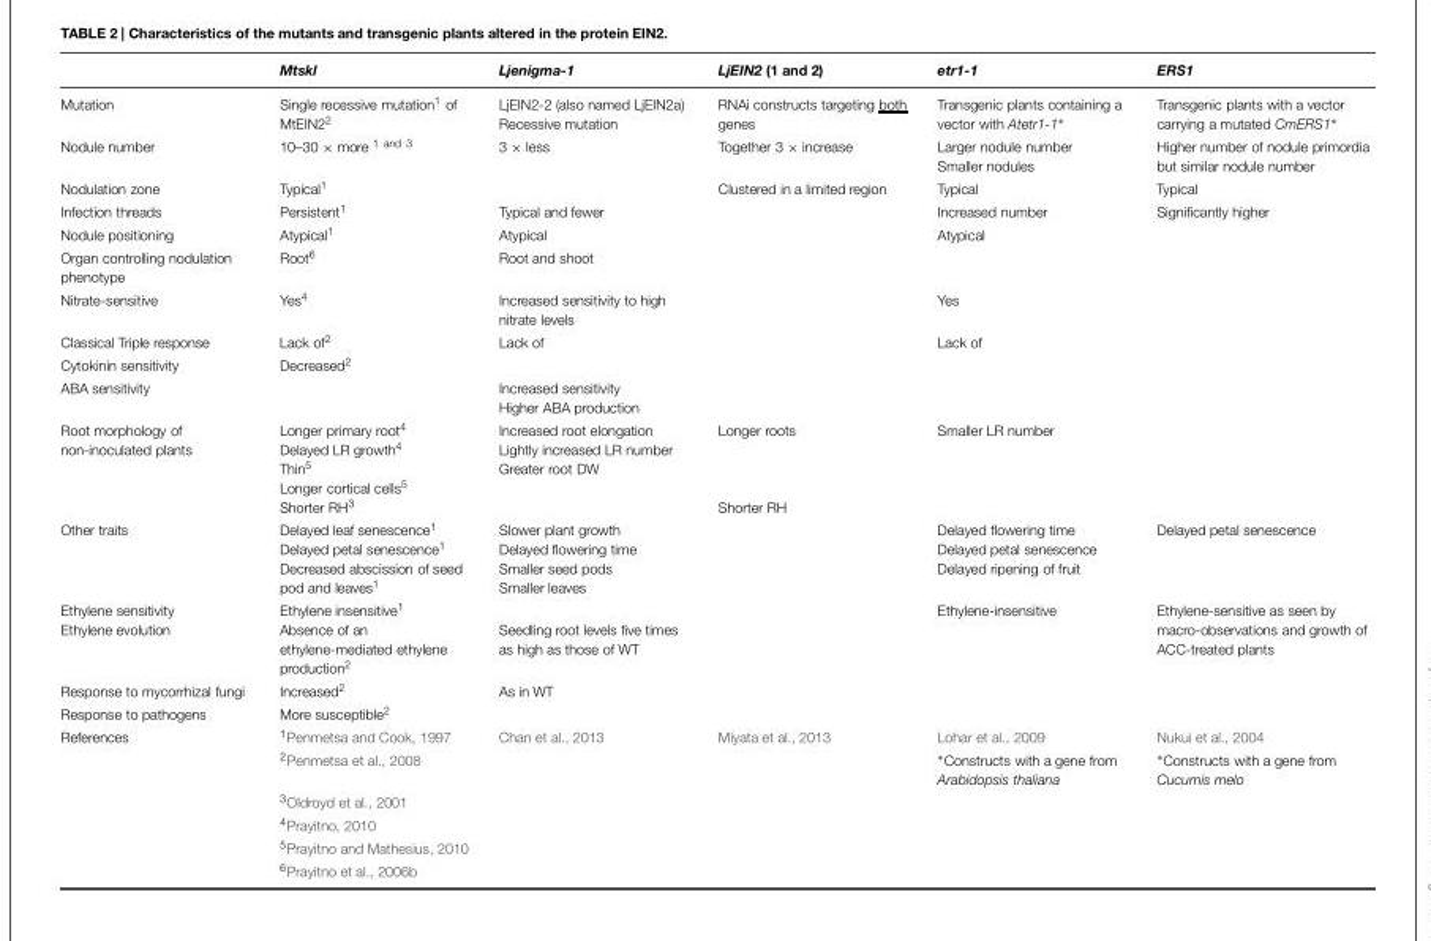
<table><thead><tr><td></td><td>Mtskl</td><td>Ljenigma-1</td><td>LjEIN2 (1 and 2)</td><td>etr1-1</td><td>ERS1</td></tr></thead><tbody><tr><td>Mutation</td><td>Single recessive mutation<sup>1</sup> of MtEIN2<sup>2</sup></td><td>LjEIN2-2 (also named LjEIN2a) Recessive mutation</td><td>RNAi constructs targeting both genes</td><td>Transgenic plants containing a vector with Atetr1-1∗</td><td>Transgenic plants with a vector carrying a mutated CmERS1∗</td></tr><tr><td>Nodule number</td><td>10–30 × more <sup>1 and 3</sup></td><td>3 × less</td><td>Together 3 × increase</td><td>Larger nodule number Smaller nodules</td><td>Higher number of nodule primordia but similar nodule number</td></tr><tr><td>Nodulation zone</td><td>Typical<sup>1</sup></td><td></td><td>Clustered in a limited region</td><td>Typical</td><td>Typical</td></tr><tr><td>Infection threads</td><td>Persistent<sup>1</sup></td><td>Typical and fewer</td><td></td><td>Increased number</td><td>Significantly higher</td></tr><tr><td>Nodule positioning</td><td>Atypical<sup>1</sup></td><td>Atypical</td><td></td><td>Atypical</td><td></td></tr><tr><td>Organ controlling nodulation phenotype</td><td>Root<sup>6</sup></td><td>Root and shoot</td><td></td><td></td><td></td></tr><tr><td>Nitrate-sensitive</td><td>Yes<sup>4</sup></td><td>Increased sensitivity to high nitrate levels</td><td></td><td>Yes</td><td></td></tr><tr><td>Classical Triple response</td><td>Lack of<sup>2</sup></td><td>Lack of</td><td></td><td>Lack of</td><td></td></tr><tr><td>Cytokinin sensitivity</td><td>Decreased<sup>2</sup></td><td></td><td></td><td></td><td></td></tr><tr><td>ABA sensitivity</td><td></td><td>Increased sensitivity Higher ABA production</td><td></td><td></td><td></td></tr><tr><td>Root morphology of non-inoculated plants</td><td>Longer primary root<sup>4</sup> Delayed LR growth<sup>4</sup> Thin<sup>5</sup> Longer cortical cells<sup>5</sup> Shorter RH<sup>3</sup></td><td>Increased root elongation Lightly increased LR number Greater root DW</td><td>Longer roots Shorter RH</td><td>Smaller LR number</td><td></td></tr><tr><td>Other traits</td><td>Delayed leaf senescence<sup>1</sup> Delayed petal senescence<sup>1</sup> Decreased abscission of seed pod and leaves<sup>1</sup></td><td>Slower plant growth Delayed flowering time Smaller seed pods Smaller leaves</td><td></td><td>Delayed flowering time Delayed petal senescence Delayed ripening of fruit</td><td>Delayed petal senescence</td></tr><tr><td>Ethylene sensitivity Ethylene evolution</td><td>Ethylene insensitive<sup>1</sup> Absence of an ethylene-mediated ethylene production<sup>2</sup></td><td>Seedling root levels five times as high as those of WT</td><td></td><td>Ethylene-insensitive</td><td>Ethylene-sensitive as seen by macro-observations and growth of ACC-treated plants</td></tr><tr><td>Response to mycorrhizal fungi</td><td>Increased<sup>2</sup></td><td>As in WT</td><td></td><td></td><td></td></tr><tr><td>Response to pathogens</td><td>More susceptible<sup>2</sup></td><td></td><td></td><td></td><td></td></tr><tr><td rowspan="6">References</td><td><sup>1</sup>Penmetsa and Cook, 1997</td><td>Chan et al., 2013</td><td>Miyata et al., 2013</td><td>Lohar et al., 2009</td><td>Nukui et al., 2004</td></tr><tr><td><sup>2</sup>Penmetsa et al., 2008</td><td></td><td></td><td>∗Constructs with a gene from Arabidopsis thaliana</td><td>∗Constructs with a gene from Cucumis melo</td></tr><tr><td><sup>3</sup>Oldroyd et al., 2001</td><td></td><td></td><td></td><td></td></tr><tr><td><sup>4</sup>Prayitno, 2010</td><td></td><td></td><td></td><td></td></tr><tr><td><sup>5</sup>Prayitno and Mathesius, 2010</td><td></td><td></td><td></td><td></td></tr><tr><td><sup>6</sup>Prayitno et al., 2006b</td><td></td><td></td><td></td><td></td></tr></tbody></table>